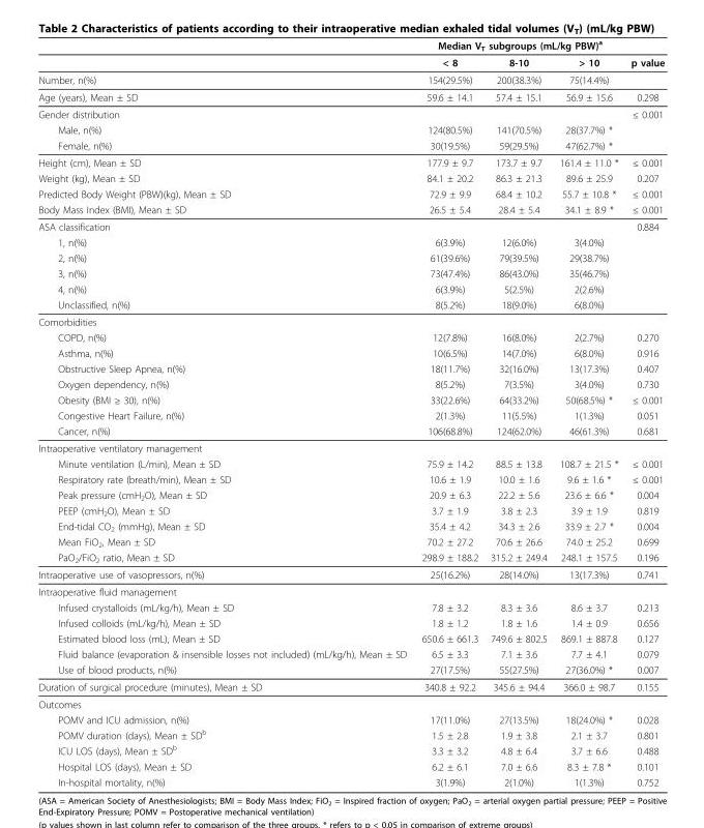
<table><thead><tr><td rowspan="2"></td><td colspan="3">Median V<sub>T</sub> subgroups (mL/kg PBW)<sup>a</sup></td><td rowspan="2">p value</td></tr><tr><td>&lt; 8</td><td>8-10</td><td>&gt; 10</td></tr></thead><tbody><tr><td>Number, n(%)</td><td>154(29.5%)</td><td>200(38.3%)</td><td>75(14.4%)</td><td></td></tr><tr><td>Age (years), Mean ± SD</td><td>59.6 ± 14.1</td><td>57.4 ± 15.1</td><td>56.9 ± 15.6</td><td>0.298</td></tr><tr><td>Gender distribution</td><td></td><td></td><td></td><td>≤ 0.001</td></tr><tr><td>Male, n(%)</td><td>124(80.5%)</td><td>141(70.5%)</td><td>28(37.7%) *</td><td></td></tr><tr><td>Female, n(%)</td><td>30(19.5%)</td><td>59(29.5%)</td><td>47(62.7%) *</td><td></td></tr><tr><td>Height (cm), Mean ± SD</td><td>177.9 ± 9.7</td><td>173.7 ± 9.7</td><td>161.4 ± 11.0 *</td><td>≤ 0.001</td></tr><tr><td>Weight (kg), Mean ± SD</td><td>84.1 ± 20.2</td><td>86.3 ± 21.3</td><td>89.6 ± 25.9</td><td>0.207</td></tr><tr><td>Predicted Body Weight (PBW)(kg), Mean ± SD</td><td>72.9 ± 9.9</td><td>68.4 ± 10.2</td><td>55.7 ± 10.8 *</td><td>≤ 0.001</td></tr><tr><td>Body Mass Index (BMI), Mean ± SD</td><td>26.5 ± 5.4</td><td>28.4 ± 5.4</td><td>34.1 ± 8.9 *</td><td>≤ 0.001</td></tr><tr><td>ASA classification</td><td></td><td></td><td></td><td>0.884</td></tr><tr><td>1, n(%)</td><td>6(3.9%)</td><td>12(6.0%)</td><td>3(4.0%)</td><td></td></tr><tr><td>2, n(%)</td><td>61(39.6%)</td><td>79(39.5%)</td><td>29(38.7%)</td><td></td></tr><tr><td>3, n(%)</td><td>73(47.4%)</td><td>86(43.0%)</td><td>35(46.7%)</td><td></td></tr><tr><td>4, n(%)</td><td>6(3.9%)</td><td>5(2.5%)</td><td>2(2.6%)</td><td></td></tr><tr><td>Unclassified, n(%)</td><td>8(5.2%)</td><td>18(9.0%)</td><td>6(8.0%)</td><td></td></tr><tr><td colspan="5">Comorbidities</td></tr><tr><td>COPD, n(%)</td><td>12(7.8%)</td><td>16(8.0%)</td><td>2(2.7%)</td><td>0.270</td></tr><tr><td>Asthma, n(%)</td><td>10(6.5%)</td><td>14(7.0%)</td><td>6(8.0%)</td><td>0.916</td></tr><tr><td>Obstructive Sleep Apnea, n(%)</td><td>18(11.7%)</td><td>32(16.0%)</td><td>13(17.3%)</td><td>0.407</td></tr><tr><td>Oxygen dependency, n(%)</td><td>8(5.2%)</td><td>7(3.5%)</td><td>3(4.0%)</td><td>0.730</td></tr><tr><td>Obesity (BMI ≥ 30), n(%)</td><td>33(22.6%)</td><td>64(33.2%)</td><td>50(68.5%) *</td><td>≤ 0.001</td></tr><tr><td>Congestive Heart Failure, n(%)</td><td>2(1.3%)</td><td>11(5.5%)</td><td>1(1.3%)</td><td>0.051</td></tr><tr><td>Cancer, n(%)</td><td>106(68.8%)</td><td>124(62.0%)</td><td>46(61.3%)</td><td>0.681</td></tr><tr><td colspan="5">Intraoperative ventilatory management</td></tr><tr><td>Minute ventilation (L/min), Mean ± SD</td><td>75.9 ± 14.2</td><td>88.5 ± 13.8</td><td>108.7 ± 21.5 *</td><td>≤ 0.001</td></tr><tr><td>Respiratory rate (breath/min), Mean ± SD</td><td>10.6 ± 1.9</td><td>10.0 ± 1.6</td><td>9.6 ± 1.6 *</td><td>≤ 0.001</td></tr><tr><td>Peak pressure (cmH<sub>2</sub>O), Mean ± SD</td><td>20.9 ± 6.3</td><td>22.2 ± 5.6</td><td>23.6 ± 6.6 *</td><td>0.004</td></tr><tr><td>PEEP (cmH<sub>2</sub>O), Mean ± SD</td><td>3.7 ± 1.9</td><td>3.8 ± 2.3</td><td>3.9 ± 1.9</td><td>0.819</td></tr><tr><td>End-tidal CO<sub>2</sub> (mmHg), Mean ± SD</td><td>35.4 ± 4.2</td><td>34.3 ± 2.6</td><td>33.9 ± 2.7 *</td><td>0.004</td></tr><tr><td>Mean FiO<sub>2</sub>, Mean ± SD</td><td>70.2 ± 27.2</td><td>70.6 ± 26.6</td><td>74.0 ± 25.2</td><td>0.699</td></tr><tr><td>PaO<sub>2</sub>/FiO<sub>2</sub> ratio, Mean ± SD</td><td>298.9 ± 188.2</td><td>315.2 ± 249.4</td><td>248.1 ± 157.5</td><td>0.196</td></tr><tr><td>Intraoperative use of vasopressors, n(%)</td><td>25(16.2%)</td><td>28(14.0%)</td><td>13(17.3%)</td><td>0.741</td></tr><tr><td colspan="5">Intraoperative fluid management</td></tr><tr><td>Infused crystalloids (mL/kg/h), Mean ± SD</td><td>7.8 ± 3.2</td><td>8.3 ± 3.6</td><td>8.6 ± 3.7</td><td>0.213</td></tr><tr><td>Infused colloids (mL/kg/h), Mean ± SD</td><td>1.8 ± 1.2</td><td>1.8 ± 1.6</td><td>1.4 ± 0.9</td><td>0.656</td></tr><tr><td>Estimated blood loss (mL), Mean ± SD</td><td>650.6 ± 661.3</td><td>749.6 ± 802.5</td><td>869.1 ± 887.8</td><td>0.127</td></tr><tr><td>Fluid balance (evaporation &amp; insensible losses not included) (mL/kg/h), Mean ± SD</td><td>6.5 ± 3.3</td><td>7.1 ± 3.6</td><td>7.7 ± 4.1</td><td>0.079</td></tr><tr><td>Use of blood products, n(%)</td><td>27(17.5%)</td><td>55(27.5%)</td><td>27(36.0%) *</td><td>0.007</td></tr><tr><td>Duration of surgical procedure (minutes), Mean ± SD</td><td>340.8 ± 92.2</td><td>345.6 ± 94.4</td><td>366.0 ± 98.7</td><td>0.155</td></tr><tr><td colspan="5">Outcomes</td></tr><tr><td>POMV and ICU admission, n(%)</td><td>17(11.0%)</td><td>27(13.5%)</td><td>18(24.0%) *</td><td>0.028</td></tr><tr><td>POMV duration (days), Mean ± SD<sup>b</sup></td><td>1.5 ± 2.8</td><td>1.9 ± 3.8</td><td>2.1 ± 3.7</td><td>0.801</td></tr><tr><td>ICU LOS (days), Mean ± SD<sup>b</sup></td><td>3.3 ± 3.2</td><td>4.8 ± 6.4</td><td>3.7 ± 6.6</td><td>0.488</td></tr><tr><td>Hospital LOS (days), Mean ± SD</td><td>6.2 ± 6.1</td><td>7.0 ± 6.6</td><td>8.3 ± 7.8 *</td><td>0.101</td></tr><tr><td>In-hospital mortality, n(%)</td><td>3(1.9%)</td><td>2(1.0%)</td><td>1(1.3%)</td><td>0.752</td></tr></tbody></table>